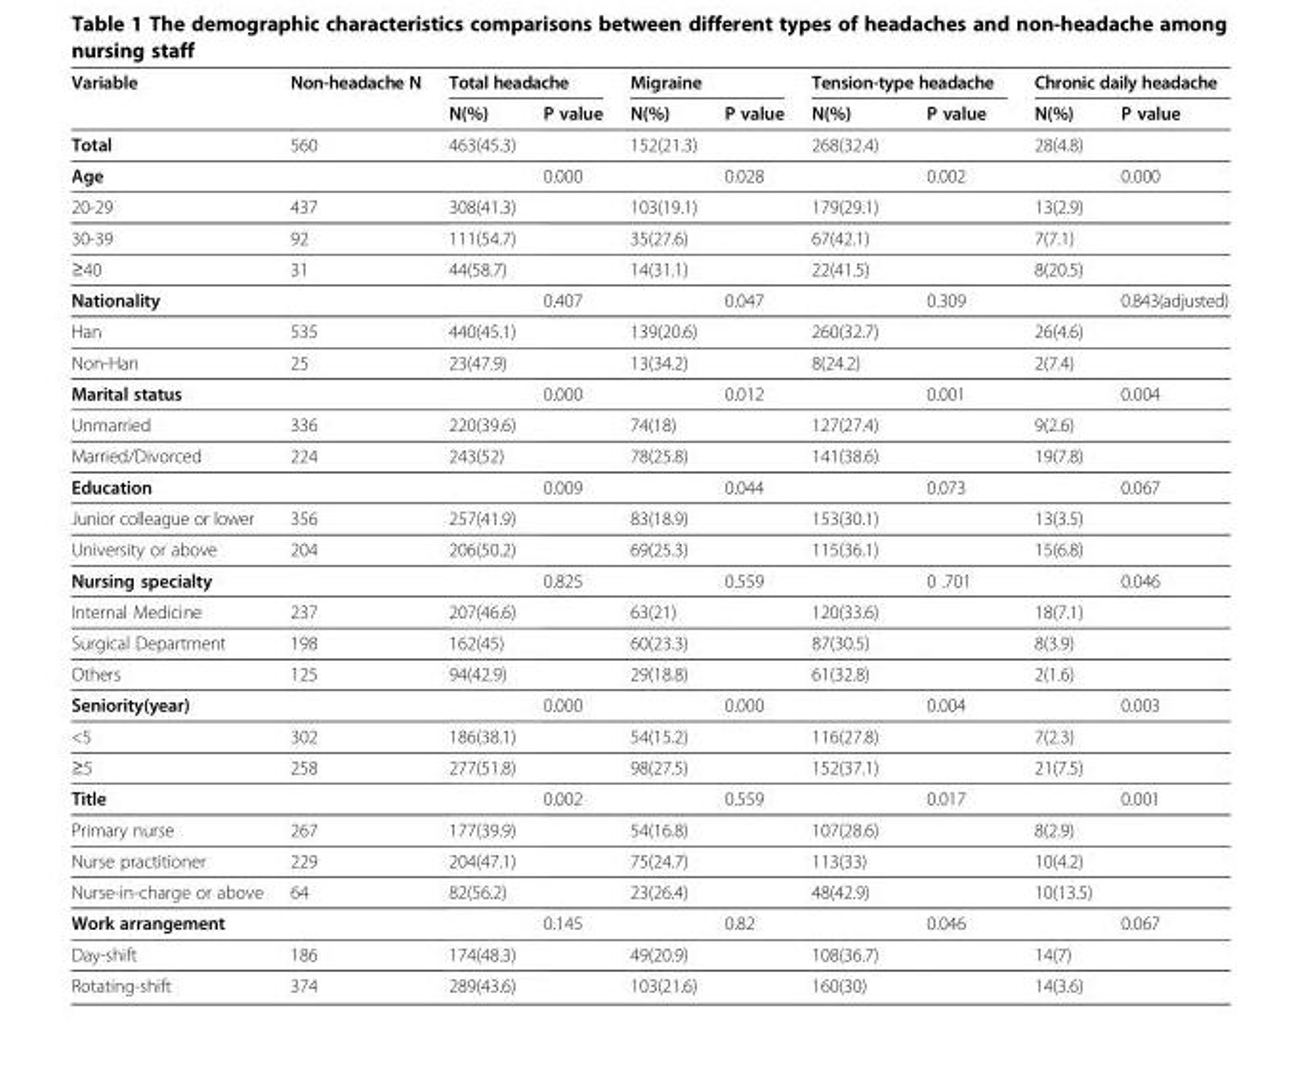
<table><thead><tr><td rowspan="2">Variable</td><td rowspan="2">Non-headache N</td><td colspan="2">Total headache</td><td colspan="2">Migraine</td><td colspan="2">Tension-type headache</td><td colspan="2">Chronic daily headache</td></tr><tr><td>N(%)</td><td>P value</td><td>N(%)</td><td>P value</td><td>N(%)</td><td>P value</td><td>N(%)</td><td>P value</td></tr></thead><tbody><tr><td>Total</td><td>560</td><td>463(45.3)</td><td></td><td>152(21.3)</td><td></td><td>268(32.4)</td><td></td><td>28(4.8)</td><td></td></tr><tr><td>Age</td><td></td><td></td><td>0.000</td><td></td><td>0.028</td><td></td><td>0.002</td><td></td><td>0.000</td></tr><tr><td>20-29</td><td>437</td><td>308(41.3)</td><td></td><td>103(19.1)</td><td></td><td>179(29.1)</td><td></td><td>13(2.9)</td><td></td></tr><tr><td>30-39</td><td>92</td><td>111(54.7)</td><td></td><td>35(27.6)</td><td></td><td>67(42.1)</td><td></td><td>7(7.1)</td><td></td></tr><tr><td>≥40</td><td>31</td><td>44(58.7)</td><td></td><td>14(31.1)</td><td></td><td>22(41.5)</td><td></td><td>8(20.5)</td><td></td></tr><tr><td>Nationality</td><td></td><td></td><td>0.407</td><td></td><td>0.047</td><td></td><td>0.309</td><td></td><td>0.843(adjusted)</td></tr><tr><td>Han</td><td>535</td><td>440(45.1)</td><td></td><td>139(20.6)</td><td></td><td>260(32.7)</td><td></td><td>26(4.6)</td><td></td></tr><tr><td>Non-Han</td><td>25</td><td>23(47.9)</td><td></td><td>13(34.2)</td><td></td><td>8(24.2)</td><td></td><td>2(7.4)</td><td></td></tr><tr><td>Marital status</td><td></td><td></td><td>0.000</td><td></td><td>0.012</td><td></td><td>0.001</td><td></td><td>0.004</td></tr><tr><td>Unmarried</td><td>336</td><td>220(39.6)</td><td></td><td>74(18)</td><td></td><td>127(27.4)</td><td></td><td>9(2.6)</td><td></td></tr><tr><td>Married/Divorced</td><td>224</td><td>243(52)</td><td></td><td>78(25.8)</td><td></td><td>141(38.6)</td><td></td><td>19(7.8)</td><td></td></tr><tr><td>Education</td><td></td><td></td><td>0.009</td><td></td><td>0.044</td><td></td><td>0.073</td><td></td><td>0.067</td></tr><tr><td>Junior colleague or lower</td><td>356</td><td>257(41.9)</td><td></td><td>83(18.9)</td><td></td><td>153(30.1)</td><td></td><td>13(3.5)</td><td></td></tr><tr><td>University or above</td><td>204</td><td>206(50.2)</td><td></td><td>69(25.3)</td><td></td><td>115(36.1)</td><td></td><td>15(6.8)</td><td></td></tr><tr><td>Nursing specialty</td><td></td><td></td><td>0.825</td><td></td><td>0.559</td><td></td><td>0 .701</td><td></td><td>0.046</td></tr><tr><td>Internal Medicine</td><td>237</td><td>207(46.6)</td><td></td><td>63(21)</td><td></td><td>120(33.6)</td><td></td><td>18(7.1)</td><td></td></tr><tr><td>Surgical Department</td><td>198</td><td>162(45)</td><td></td><td>60(23.3)</td><td></td><td>87(30.5)</td><td></td><td>8(3.9)</td><td></td></tr><tr><td>Others</td><td>125</td><td>94(42.9)</td><td></td><td>29(18.8)</td><td></td><td>61(32.8)</td><td></td><td>2(1.6)</td><td></td></tr><tr><td>Seniority(year)</td><td></td><td></td><td>0.000</td><td></td><td>0.000</td><td></td><td>0.004</td><td></td><td>0.003</td></tr><tr><td>&lt;5</td><td>302</td><td>186(38.1)</td><td></td><td>54(15.2)</td><td></td><td>116(27.8)</td><td></td><td>7(2.3)</td><td></td></tr><tr><td>≥5</td><td>258</td><td>277(51.8)</td><td></td><td>98(27.5)</td><td></td><td>152(37.1)</td><td></td><td>21(7.5)</td><td></td></tr><tr><td>Title</td><td></td><td></td><td>0.002</td><td></td><td>0.559</td><td></td><td>0.017</td><td></td><td>0.001</td></tr><tr><td>Primary nurse</td><td>267</td><td>177(39.9)</td><td></td><td>54(16.8)</td><td></td><td>107(28.6)</td><td></td><td>8(2.9)</td><td></td></tr><tr><td>Nurse practitioner</td><td>229</td><td>204(47.1)</td><td></td><td>75(24.7)</td><td></td><td>113(33)</td><td></td><td>10(4.2)</td><td></td></tr><tr><td>Nurse-in-charge or above</td><td>64</td><td>82(56.2)</td><td></td><td>23(26.4)</td><td></td><td>48(42.9)</td><td></td><td>10(13.5)</td><td></td></tr><tr><td>Work arrangement</td><td></td><td></td><td>0.145</td><td></td><td>0.82</td><td></td><td>0.046</td><td></td><td>0.067</td></tr><tr><td>Day-shift</td><td>186</td><td>174(48.3)</td><td></td><td>49(20.9)</td><td></td><td>108(36.7)</td><td></td><td>14(7)</td><td></td></tr><tr><td>Rotating-shift</td><td>374</td><td>289(43.6)</td><td></td><td>103(21.6)</td><td></td><td>160(30)</td><td></td><td>14(3.6)</td><td></td></tr></tbody></table>